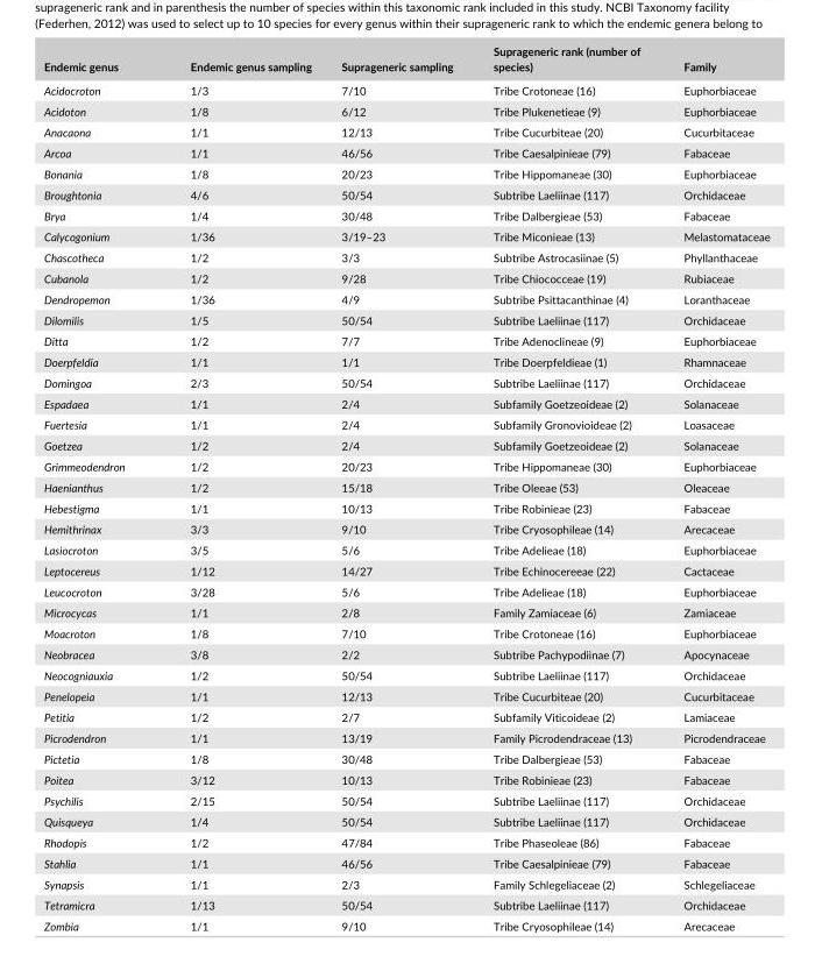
<table><thead><tr><td>Endemic genus</td><td>Endemic genus sampling</td><td>Suprageneric sampling</td><td>Suprageneric rank (number of species)</td><td>Family</td></tr></thead><tbody><tr><td>Acidocroton</td><td>1/3</td><td>7/10</td><td>Tribe Crotoneae (16)</td><td>Euphorbiaceae</td></tr><tr><td>Acidoton</td><td>1/8</td><td>6/12</td><td>Tribe Plukenetieae (9)</td><td>Euphorbiaceae</td></tr><tr><td>Anacaona</td><td>1/1</td><td>12/13</td><td>Tribe Cucurbiteae (20)</td><td>Cucurbitaceae</td></tr><tr><td>Arcoa</td><td>1/1</td><td>46/56</td><td>Tribe Caesalpinieae (79)</td><td>Fabaceae</td></tr><tr><td>Bonania</td><td>1/8</td><td>20/23</td><td>Tribe Hippomaneae (30)</td><td>Euphorbiaceae</td></tr><tr><td>Broughtonia</td><td>4/6</td><td>50/54</td><td>Subtribe Laeliinae (117)</td><td>Orchidaceae</td></tr><tr><td>Brya</td><td>1/4</td><td>30/48</td><td>Tribe Dalbergieae (53)</td><td>Fabaceae</td></tr><tr><td>Calycogonium</td><td>1/36</td><td>3/19–23</td><td>Tribe Miconieae (13)</td><td>Melastomataceae</td></tr><tr><td>Chascotheca</td><td>1/2</td><td>3/3</td><td>Subtribe Astrocasiinae (5)</td><td>Phyllanthaceae</td></tr><tr><td>Cubanola</td><td>1/2</td><td>9/28</td><td>Tribe Chiococceae (19)</td><td>Rubiaceae</td></tr><tr><td>Dendropemon</td><td>1/36</td><td>4/9</td><td>Subtribe Psittacanthinae (4)</td><td>Loranthaceae</td></tr><tr><td>Dilomilis</td><td>1/5</td><td>50/54</td><td>Subtribe Laeliinae (117)</td><td>Orchidaceae</td></tr><tr><td>Ditta</td><td>1/2</td><td>7/7</td><td>Tribe Adenoclineae (9)</td><td>Euphorbiaceae</td></tr><tr><td>Doerpfeldia</td><td>1/1</td><td>1/1</td><td>Tribe Doerpfeldieae (1)</td><td>Rhamnaceae</td></tr><tr><td>Domingoa</td><td>2/3</td><td>50/54</td><td>Subtribe Laeliinae (117)</td><td>Orchidaceae</td></tr><tr><td>Espadaea</td><td>1/1</td><td>2/4</td><td>Subfamily Goetzeoideae (2)</td><td>Solanaceae</td></tr><tr><td>Fuertesia</td><td>1/1</td><td>2/4</td><td>Subfamily Gronovioideae (2)</td><td>Loasaceae</td></tr><tr><td>Goetzea</td><td>1/2</td><td>2/4</td><td>Subfamily Goetzeoideae (2)</td><td>Solanaceae</td></tr><tr><td>Grimmeodendron</td><td>1/2</td><td>20/23</td><td>Tribe Hippomaneae (30)</td><td>Euphorbiaceae</td></tr><tr><td>Haenianthus</td><td>1/2</td><td>15/18</td><td>Tribe Oleeae (53)</td><td>Oleaceae</td></tr><tr><td>Hebestigma</td><td>1/1</td><td>10/13</td><td>Tribe Robinieae (23)</td><td>Fabaceae</td></tr><tr><td>Hemithrinax</td><td>3/3</td><td>9/10</td><td>Tribe Cryosophileae (14)</td><td>Arecaceae</td></tr><tr><td>Lasiocroton</td><td>3/5</td><td>5/6</td><td>Tribe Adelieae (18)</td><td>Euphorbiaceae</td></tr><tr><td>Leptocereus</td><td>1/12</td><td>14/27</td><td>Tribe Echinocereeae (22)</td><td>Cactaceae</td></tr><tr><td>Leucocroton</td><td>3/28</td><td>5/6</td><td>Tribe Adelieae (18)</td><td>Euphorbiaceae</td></tr><tr><td>Microcycas</td><td>1/1</td><td>2/8</td><td>Family Zamiaceae (6)</td><td>Zamiaceae</td></tr><tr><td>Moacroton</td><td>1/8</td><td>7/10</td><td>Tribe Crotoneae (16)</td><td>Euphorbiaceae</td></tr><tr><td>Neobracea</td><td>3/8</td><td>2/2</td><td>Subtribe Pachypodiinae (7)</td><td>Apocynaceae</td></tr><tr><td>Neocogniauxia</td><td>1/2</td><td>50/54</td><td>Subtribe Laeliinae (117)</td><td>Orchidaceae</td></tr><tr><td>Penelopeia</td><td>1/1</td><td>12/13</td><td>Tribe Cucurbiteae (20)</td><td>Cucurbitaceae</td></tr><tr><td>Petitia</td><td>1/2</td><td>2/7</td><td>Subfamily Viticoideae (2)</td><td>Lamiaceae</td></tr><tr><td>Picrodendron</td><td>1/1</td><td>13/19</td><td>Family Picrodendraceae (13)</td><td>Picrodendraceae</td></tr><tr><td>Pictetia</td><td>1/8</td><td>30/48</td><td>Tribe Dalbergieae (53)</td><td>Fabaceae</td></tr><tr><td>Poitea</td><td>3/12</td><td>10/13</td><td>Tribe Robinieae (23)</td><td>Fabaceae</td></tr><tr><td>Psychilis</td><td>2/15</td><td>50/54</td><td>Subtribe Laeliinae (117)</td><td>Orchidaceae</td></tr><tr><td>Quisqueya</td><td>1/4</td><td>50/54</td><td>Subtribe Laeliinae (117)</td><td>Orchidaceae</td></tr><tr><td>Rhodopis</td><td>1/2</td><td>47/84</td><td>Tribe Phaseoleae (86)</td><td>Fabaceae</td></tr><tr><td>Stahlia</td><td>1/1</td><td>46/56</td><td>Tribe Caesalpinieae (79)</td><td>Fabaceae</td></tr><tr><td>Synapsis</td><td>1/1</td><td>2/3</td><td>Family Schlegeliaceae (2)</td><td>Schlegeliaceae</td></tr><tr><td>Tetramicra</td><td>1/13</td><td>50/54</td><td>Subtribe Laeliinae (117)</td><td>Orchidaceae</td></tr><tr><td>Zombia</td><td>1/1</td><td>9/10</td><td>Tribe Cryosophileae (14)</td><td>Arecaceae</td></tr></tbody></table>